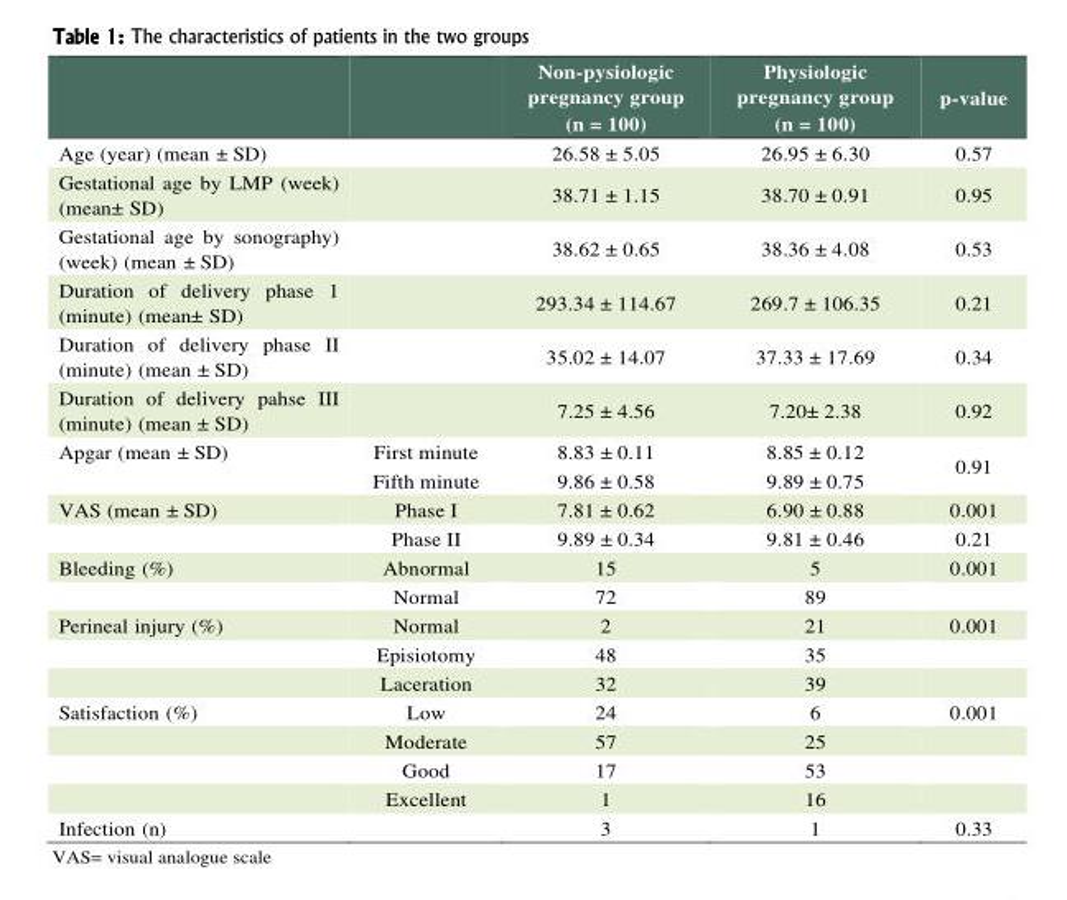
<table><thead><tr><td></td><td></td><td>Non-pysiologic pregnancy group (n = 100)</td><td>Physiologic pregnancy group (n = 100)</td><td>p-value</td></tr></thead><tbody><tr><td>Age (year) (mean ± SD)</td><td></td><td>26.58 ± 5.05</td><td>26.95 ± 6.30</td><td>0.57</td></tr><tr><td>Gestational age by LMP (week) (mean± SD)</td><td></td><td>38.71 ± 1.15</td><td>38.70 ± 0.91</td><td>0.95</td></tr><tr><td>Gestational age by sonography) (week) (mean ± SD)</td><td></td><td>38.62 ± 0.65</td><td>38.36 ± 4.08</td><td>0.53</td></tr><tr><td>Duration of delivery phase 1 (minute) (mean± SD)</td><td></td><td>293.34 ± 114.67</td><td>269.7 ± 106.35</td><td>0.21</td></tr><tr><td>Duration of delivery phase II (minute) (mean ± SD)</td><td></td><td>35.02 ± 14.07</td><td>37.33 ± 17.69</td><td>0.34</td></tr><tr><td>Duration of delivery pahse III (minute) (mean ± SD)</td><td></td><td>7.25 ± 4.56</td><td>7.20± 2.38</td><td>0.92</td></tr><tr><td rowspan="2">Apgar (mean ± SD)</td><td>First minute</td><td>8.83 ± 0.11</td><td>8.85 ± 0.12</td><td rowspan="2">0.91</td></tr><tr><td>Fifth minute</td><td>9.86 ± 0.58</td><td>9.89 ± 0.75</td></tr><tr><td rowspan="2">VAS (mean ± SD)</td><td>Phase I</td><td>7.81 ± 0.62</td><td>6.90 ± 0.88</td><td>0.001</td></tr><tr><td>Phase II</td><td>9.89 ± 0.34</td><td>9.81 ± 0.46</td><td>0.21</td></tr><tr><td rowspan="2">Bleeding (%)</td><td>Abnormal</td><td>15</td><td>5</td><td>0.001</td></tr><tr><td>Normal</td><td>72</td><td>89</td><td></td></tr><tr><td rowspan="3">Perineal injury (%)</td><td>Normal</td><td>2</td><td>21</td><td>0.001</td></tr><tr><td>Episiotomy</td><td>48</td><td>35</td><td></td></tr><tr><td>Laceration</td><td>32</td><td>39</td><td></td></tr><tr><td rowspan="4">Satisfaction (%)</td><td>Low</td><td>24</td><td>6</td><td>0.001</td></tr><tr><td>Moderate</td><td>57</td><td>25</td><td></td></tr><tr><td>Good</td><td>17</td><td>53</td><td></td></tr><tr><td>Excellent</td><td>1</td><td>16</td><td></td></tr><tr><td>Infection (n)</td><td></td><td>3</td><td>1</td><td>0.33</td></tr></tbody></table>